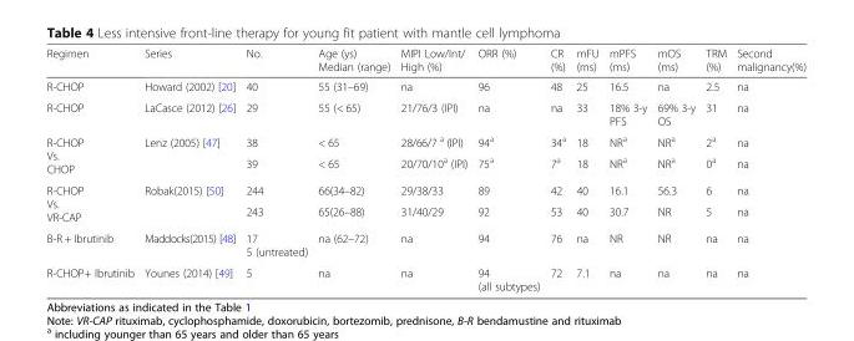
<table><thead><tr><td>Regimen</td><td>Series</td><td>No.</td><td>Age (ys) Median (range)</td><td>MIPI Low/Int/ High (%)</td><td>ORR (%)</td><td>CR (%)</td><td>mFU (ms)</td><td>mPFS (ms)</td><td>mOS (ms)</td><td>TRM (%)</td><td>Second malignancy(%)</td></tr></thead><tbody><tr><td>R-CHOP</td><td>Howard (2002) [20]</td><td>40</td><td>55 (31–69)</td><td>na</td><td>96</td><td>48</td><td>25</td><td>16.5</td><td>na</td><td>2.5</td><td>na</td></tr><tr><td>R-CHOP</td><td>LaCasce (2012) [26]</td><td>29</td><td>55 (&lt; 65)</td><td>21/76/3 (IPI)</td><td>na</td><td>na</td><td>33</td><td>18% 3-y PFS</td><td>69% 3-y OS</td><td>31</td><td>na</td></tr><tr><td rowspan="2">R-CHOP Vs. CHOP</td><td rowspan="2">Lenz (2005) [47]</td><td>38</td><td>&lt; 65</td><td>28/66/7 <sup>a</sup> (IPI)</td><td>94<sup>a</sup></td><td>34<sup>a</sup></td><td>18</td><td>NR<sup>a</sup></td><td>NR<sup>a</sup></td><td>2<sup>a</sup></td><td>na</td></tr><tr><td>39</td><td>&lt; 65</td><td>20/70/10<sup>a</sup> (IPI)</td><td>75<sup>a</sup></td><td>7<sup>a</sup></td><td>18</td><td>NR<sup>a</sup></td><td>NR<sup>a</sup></td><td>0<sup>a</sup></td><td>na</td></tr><tr><td rowspan="2">R-CHOP Vs. VR-CAP</td><td rowspan="2">Robak(2015) [50]</td><td>244</td><td>66(34–82)</td><td>29/38/33</td><td>89</td><td>42</td><td>40</td><td>16.1</td><td>56.3</td><td>6</td><td>na</td></tr><tr><td>243</td><td>65(26–88)</td><td>31/40/29</td><td>92</td><td>53</td><td>40</td><td>30.7</td><td>NR</td><td>5</td><td>na</td></tr><tr><td>B-R + Ibrutinib</td><td>Maddocks(2015) [48]</td><td>17 5 (untreated)</td><td>na (62–72)</td><td>na</td><td>94</td><td>76</td><td>na</td><td>NR</td><td>NR</td><td>na</td><td>na</td></tr><tr><td>R-CHOP+ Ibrutinib</td><td>Younes (2014) [49]</td><td>5</td><td>na</td><td>na</td><td>94 (all subtypes)</td><td>72</td><td>7.1</td><td>na</td><td>na</td><td>na</td><td>na</td></tr></tbody></table>